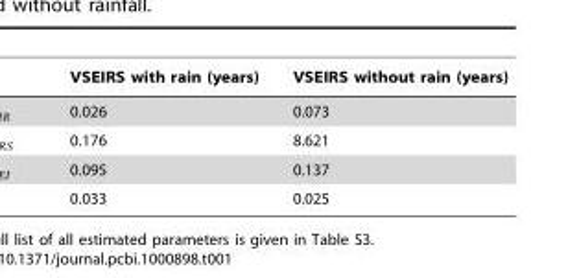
<table><thead><tr><td>VSEIRS with rain (years)</td><td>VSEIRS without rain (years)</td></tr></thead><tbody><tr><td>0.026</td><td>0.073</td></tr><tr><td>0.176</td><td>8.621</td></tr><tr><td>0.095</td><td>0.137</td></tr><tr><td>0.033</td><td>0.025</td></tr></tbody></table>